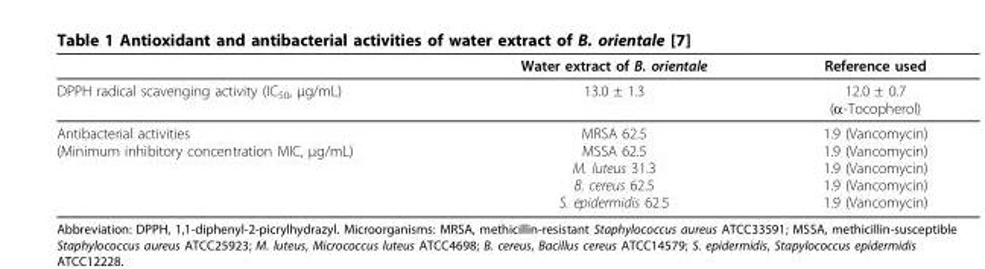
<table><thead><tr><td></td><td>Water extract of B. orientale</td><td>Reference used</td></tr></thead><tbody><tr><td>DPPH radical scavenging activity (IC<sub>50</sub>, μg/mL)</td><td>13.0 ± 1.3</td><td>12.0 ± 0.7 (α-Tocopherol)</td></tr><tr><td>Antibacterial activities (Minimum inhibitory concentration MIC, μg/mL)</td><td>MRSA 62.5 MSSA 62.5 M. luteus 31.3 B. cereus 62.5 S. epidermidis 62.5</td><td>1.9 (Vancomycin) 1.9 (Vancomycin) 1.9 (Vancomycin) 1.9 (Vancomycin) 1.9 (Vancomycin)</td></tr></tbody></table>